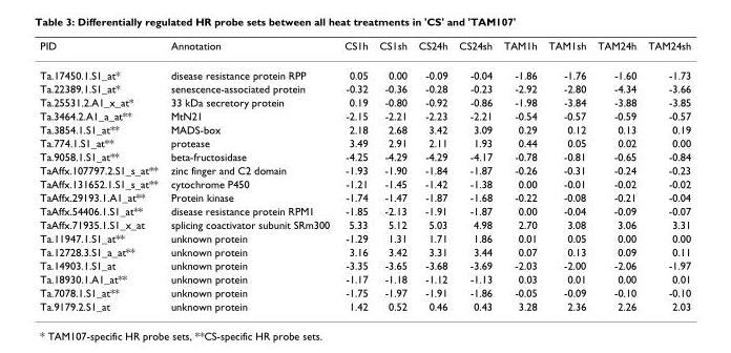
<table><thead><tr><td>PID</td><td>Annotation</td><td>CS1h</td><td>CS1sh</td><td>CS24h</td><td>CS24sh</td><td>TAM1h</td><td>TAM1sh</td><td>TAM24h</td><td>TAM24sh</td></tr></thead><tbody><tr><td>Ta.17450.1.S1_at*</td><td>disease resistance protein RPP</td><td>0.05</td><td>0.00</td><td>-0.09</td><td>-0.04</td><td>-1.86</td><td>-1.76</td><td>-1.60</td><td>-1.73</td></tr><tr><td>Ta.22389.1.S1_at*</td><td>senescence-associated protein</td><td>-0.32</td><td>-0.36</td><td>-0.28</td><td>-0.23</td><td>-2.92</td><td>-2.80</td><td>-4.34</td><td>-3.66</td></tr><tr><td>Ta.25531.2.A1_x_at*</td><td>33 kDa secretory protein</td><td>0.19</td><td>-0.80</td><td>-0.92</td><td>-0.86</td><td>-1.98</td><td>-3.84</td><td>-3.88</td><td>-3.85</td></tr><tr><td>Ta.3464.2.A1_a_at**</td><td>MtN21</td><td>-2.15</td><td>-2.21</td><td>-2.23</td><td>-2.21</td><td>-0.54</td><td>-0.57</td><td>-0.59</td><td>-0.57</td></tr><tr><td>Ta.3854.1.S1_at**</td><td>MADS-box</td><td>2.18</td><td>2.68</td><td>3.42</td><td>3.09</td><td>0.29</td><td>0.12</td><td>0.13</td><td>0.19</td></tr><tr><td>Ta.774.1.S1_at**</td><td>protease</td><td>3.49</td><td>2.91</td><td>2.11</td><td>1.93</td><td>0.44</td><td>0.05</td><td>0.02</td><td>0.00</td></tr><tr><td>Ta.9058.1.S1_at**</td><td>beta-fructosidase</td><td>-4.25</td><td>-4.29</td><td>-4.29</td><td>-4.17</td><td>-0.78</td><td>-0.81</td><td>-0.65</td><td>-0.84</td></tr><tr><td>TaAffx.107797.2.S1_s_at**</td><td>zinc finger and C2 domain</td><td>-1.93</td><td>-1.90</td><td>-1.84</td><td>-1.87</td><td>-0.26</td><td>-0.31</td><td>-0.24</td><td>-0.23</td></tr><tr><td>TaAffx.131652.1.S1_s_at**</td><td>cytochrome P450</td><td>-1.21</td><td>-1.45</td><td>-1.42</td><td>-1.38</td><td>0.00</td><td>-0.01</td><td>-0.02</td><td>-0.02</td></tr><tr><td>TaAffx.29193.1.A1_at**</td><td>Protein kinase</td><td>-1.74</td><td>-1.47</td><td>-1.87</td><td>-1.68</td><td>-0.22</td><td>-0.08</td><td>-0.21</td><td>-0.04</td></tr><tr><td>TaAffx.54406.1.S1_at**</td><td>disease resistance protein RPM1</td><td>-1.85</td><td>-2.13</td><td>-1.91</td><td>-1.87</td><td>0.00</td><td>-0.04</td><td>-0.09</td><td>-0.07</td></tr><tr><td>TaAffx.71935.1.S1_x_at</td><td>splicing coactivator subunit SRm300</td><td>5.33</td><td>5.12</td><td>5.03</td><td>4.98</td><td>2.70</td><td>3.08</td><td>3.06</td><td>3.31</td></tr><tr><td>Ta.11947.1.S1_at**</td><td>unknown protein</td><td>-1.29</td><td>1.31</td><td>1.71</td><td>1.86</td><td>0.01</td><td>0.05</td><td>0.00</td><td>0.00</td></tr><tr><td>Ta.12728.3.S1_a_at**</td><td>unknown protein</td><td>3.16</td><td>3.42</td><td>3.31</td><td>3.44</td><td>0.07</td><td>0.13</td><td>0.09</td><td>0.11</td></tr><tr><td>Ta.14903.1.S1_at</td><td>unknown protein</td><td>-3.35</td><td>-3.65</td><td>-3.68</td><td>-3.69</td><td>-2.03</td><td>-2.00</td><td>-2.06</td><td>-1.97</td></tr><tr><td>Ta.18930.1.A1_at**</td><td>unknown protein</td><td>-1.17</td><td>-1.18</td><td>-1.12</td><td>-1.13</td><td>0.03</td><td>0.01</td><td>0.00</td><td>0.01</td></tr><tr><td>Ta.7078.1.S1_at**</td><td>unknown protein</td><td>-1.75</td><td>-1.97</td><td>-1.91</td><td>-1.86</td><td>-0.05</td><td>-0.09</td><td>-0.10</td><td>-0.10</td></tr><tr><td>Ta.9179.2.S1_at</td><td>unknown protein</td><td>1.42</td><td>0.52</td><td>0.46</td><td>0.43</td><td>3.28</td><td>2.36</td><td>2.26</td><td>2.03</td></tr></tbody></table>